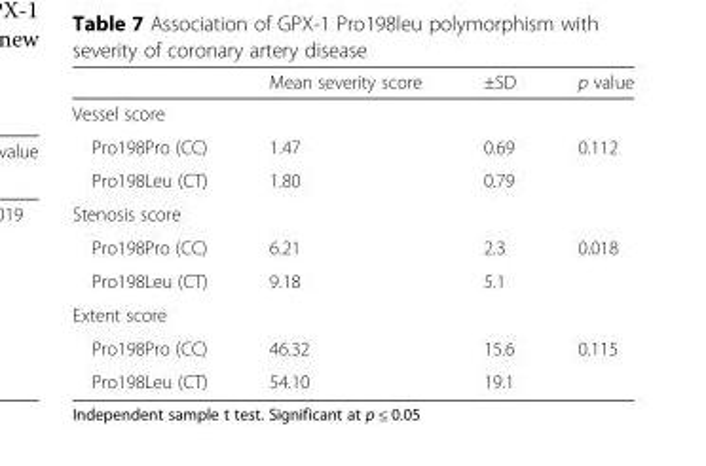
<table><thead><tr><td></td><td>Mean severity score</td><td>±SD</td><td>p value</td></tr></thead><tbody><tr><td colspan="4">Vessel score</td></tr><tr><td>Pro198Pro (CC)</td><td>1.47</td><td>0.69</td><td>0.112</td></tr><tr><td>Pro198Leu (CT)</td><td>1.80</td><td>0.79</td><td></td></tr><tr><td colspan="4">Stenosis score</td></tr><tr><td>Pro198Pro (CC)</td><td>6.21</td><td>2.3</td><td>0.018</td></tr><tr><td>Pro198Leu (CT)</td><td>9.18</td><td>5.1</td><td></td></tr><tr><td colspan="4">Extent score</td></tr><tr><td>Pro198Pro (CC)</td><td>46.32</td><td>15.6</td><td>0.115</td></tr><tr><td>Pro198Leu (CT)</td><td>54.10</td><td>19.1</td><td></td></tr></tbody></table>